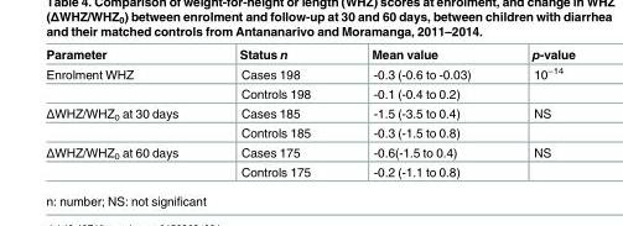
<table><thead><tr><td>Parameter</td><td>Status n</td><td>Mean value</td><td>p-value</td></tr></thead><tbody><tr><td rowspan="2">Enrolment WHZ</td><td>Cases 198</td><td>-0.3 (-0.6 to -0.03)</td><td>10<sup>−14</sup></td></tr><tr><td>Controls 198</td><td>-0.1 (-0.4 to 0.2)</td><td></td></tr><tr><td rowspan="2">ΔWHZ/WHZ<sub>0</sub> at 30 days</td><td>Cases 185</td><td>-1.5 (-3.5 to 0.4)</td><td>NS</td></tr><tr><td>Controls 185</td><td>-0.3 (-1.5 to 0.8)</td><td></td></tr><tr><td rowspan="2">ΔWHZ/WHZ<sub>0</sub> at 60 days</td><td>Cases 175</td><td>-0.6(-1.5 to 0.4)</td><td>NS</td></tr><tr><td>Controls 175</td><td>-0.2 (-1.1 to 0.8)</td><td></td></tr></tbody></table>